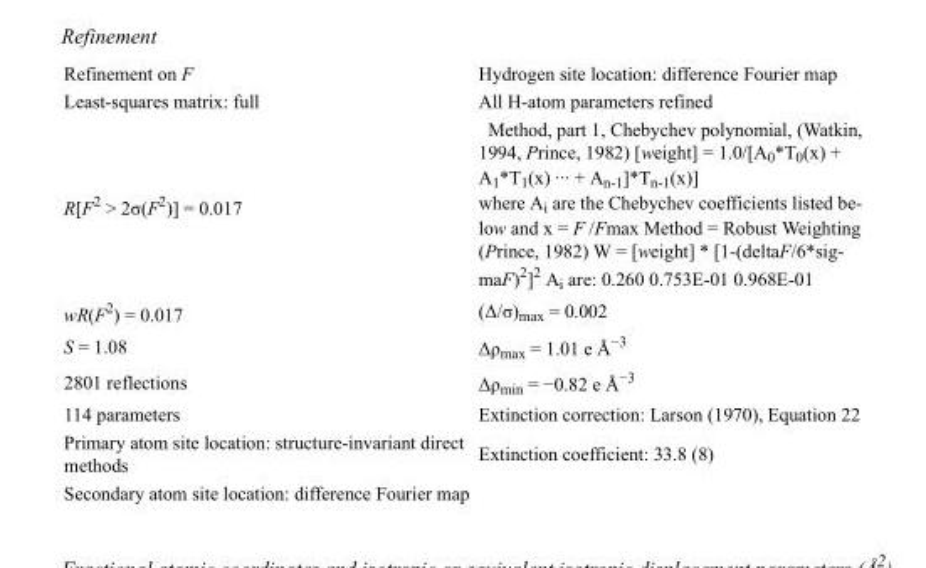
<table><tbody><tr><td>Refinement on F</td><td>Hydrogen site location: difference Fourier map</td></tr><tr><td>Least-squares matrix: full</td><td>All H-atom parameters refined</td></tr><tr><td>R[F<sup>2</sup> &gt; 2σ(F<sup>2</sup>)] = 0.017</td><td>Method, part 1, Chebychev polynomial, (Watkin, 1994, Prince, 1982) [weight] = 1.0/[A0*T0(x) + A1*T1(x) ··· + An-1]*Tn-1(x)] where Ai are the Chebychev coefficients listed be- low and x = F /Fmax Method = Robust Weighting (Prince, 1982) W = [weight] * [1-(deltaF/6*sig- maF)2]2 Ai are: 0.260 0.753E-01 0.968E-01</td></tr><tr><td>wR(F<sup>2</sup>) = 0.017</td><td>(Δ/σ)<sub>max</sub> = 0.002</td></tr><tr><td>S = 1.08</td><td>Δρ<sub>max</sub> = 1.01 e Å<sup>−3</sup></td></tr><tr><td>2801 reflections</td><td>Δρ<sub>min</sub> = −0.82 e Å<sup>−3</sup></td></tr><tr><td>114 parameters</td><td>Extinction correction: Larson (1970), Equation 22</td></tr><tr><td>Primary atom site location: structure-invariant direct methods</td><td>Extinction coefficient: 33.8 (8)</td></tr><tr><td>Secondary atom site location: difference Fourier map</td><td></td></tr></tbody></table>